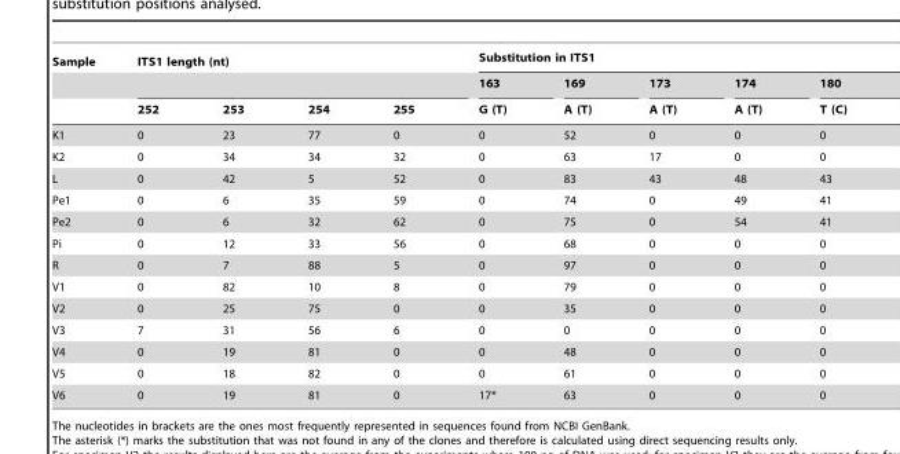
<table><thead><tr><td rowspan="3">Sample</td><td colspan="4">ITS1 length (nt)</td><td colspan="5">Substitution in ITS1</td></tr><tr><td rowspan="2">252</td><td rowspan="2">253</td><td rowspan="2">254</td><td rowspan="2">255</td><td rowspan="2">163 G (T)</td><td rowspan="2">169 A (T)</td><td rowspan="2">173 A (T)</td><td rowspan="2">174 A (T)</td><td rowspan="2">180 T (C)</td></tr><tr></tr></thead><tbody><tr><td>K1</td><td>0</td><td>23</td><td>77</td><td>0</td><td>0</td><td>52</td><td>0</td><td>0</td><td>0</td></tr><tr><td>K2</td><td>0</td><td>34</td><td>34</td><td>32</td><td>0</td><td>63</td><td>17</td><td>0</td><td>0</td></tr><tr><td>L</td><td>0</td><td>42</td><td>5</td><td>52</td><td>0</td><td>83</td><td>43</td><td>48</td><td>43</td></tr><tr><td>Pe1</td><td>0</td><td>6</td><td>35</td><td>59</td><td>0</td><td>74</td><td>0</td><td>49</td><td>41</td></tr><tr><td>Pe2</td><td>0</td><td>6</td><td>32</td><td>62</td><td>0</td><td>75</td><td>0</td><td>54</td><td>41</td></tr><tr><td>Pi</td><td>0</td><td>12</td><td>33</td><td>56</td><td>0</td><td>68</td><td>0</td><td>0</td><td>0</td></tr><tr><td>R</td><td>0</td><td>7</td><td>88</td><td>5</td><td>0</td><td>97</td><td>0</td><td>0</td><td>0</td></tr><tr><td>V1</td><td>0</td><td>82</td><td>10</td><td>8</td><td>0</td><td>79</td><td>0</td><td>0</td><td>0</td></tr><tr><td>V2</td><td>0</td><td>25</td><td>75</td><td>0</td><td>0</td><td>35</td><td>0</td><td>0</td><td>0</td></tr><tr><td>V3</td><td>7</td><td>31</td><td>56</td><td>6</td><td>0</td><td>0</td><td>0</td><td>0</td><td>0</td></tr><tr><td>V4</td><td>0</td><td>19</td><td>81</td><td>0</td><td>0</td><td>48</td><td>0</td><td>0</td><td>0</td></tr><tr><td>V5</td><td>0</td><td>18</td><td>82</td><td>0</td><td>0</td><td>61</td><td>0</td><td>0</td><td>0</td></tr><tr><td>V6</td><td>0</td><td>19</td><td>81</td><td>0</td><td>17*</td><td>63</td><td>0</td><td>0</td><td>0</td></tr></tbody></table>